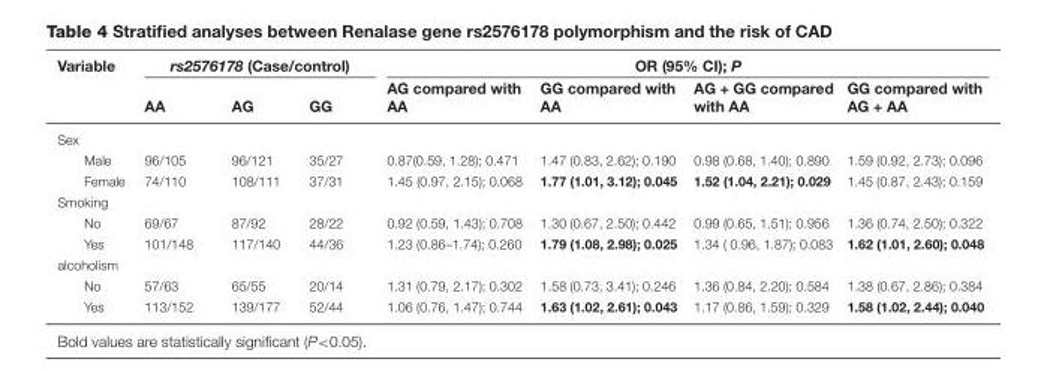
<table><thead><tr><td rowspan="2">Variable</td><td colspan="3">rs2576178 (Case/control)</td><td colspan="4">OR (95% CI); P</td></tr><tr><td>AA</td><td>AG</td><td>GG</td><td>AG compared with AA</td><td>GG compared with AA</td><td>AG + GG compared with AA</td><td>GG compared with AG + AA</td></tr></thead><tbody><tr><td colspan="8">Sex</td></tr><tr><td>Male</td><td>96/105</td><td>96/121</td><td>35/27</td><td>0.87(0.59, 1.28); 0.471</td><td>1.47 (0.83, 2.62); 0.190</td><td>0.98 (0.68, 1.40); 0.890</td><td>1.59 (0.92, 2.73); 0.096</td></tr><tr><td>Female</td><td>74/110</td><td>108/111</td><td>37/31</td><td>1.45 (0.97, 2.15); 0.068</td><td>1.77 (1.01, 3.12); 0.045</td><td>1.52 (1.04, 2.21); 0.029</td><td>1.45 (0.87, 2.43); 0.159</td></tr><tr><td colspan="8">Smoking</td></tr><tr><td>No</td><td>69/67</td><td>87/92</td><td>28/22</td><td>0.92 (0.59, 1.43); 0.708</td><td>1.30 (0.67, 2.50); 0.442</td><td>0.99 (0.65, 1.51); 0.956</td><td>1.36 (0.74, 2.50); 0.322</td></tr><tr><td>Yes</td><td>101/148</td><td>117/140</td><td>44/36</td><td>1.23 (0.86–1.74); 0.260</td><td>1.79 (1.08, 2.98); 0.025</td><td>1.34 ( 0.96, 1.87); 0.083</td><td>1.62 (1.01, 2.60); 0.048</td></tr><tr><td colspan="8">alcoholism</td></tr><tr><td>No</td><td>57/63</td><td>65/55</td><td>20/14</td><td>1.31 (0.79, 2.17); 0.302</td><td>1.58 (0.73, 3.41); 0.246</td><td>1.36 (0.84, 2.20); 0.584</td><td>1.38 (0.67, 2.86); 0.384</td></tr><tr><td>Yes</td><td>113/152</td><td>139/177</td><td>52/44</td><td>1.06 (0.76, 1.47); 0.744</td><td>1.63 (1.02, 2.61); 0.043</td><td>1.17 (0.86, 1.59); 0.329</td><td>1.58 (1.02, 2.44); 0.040</td></tr></tbody></table>